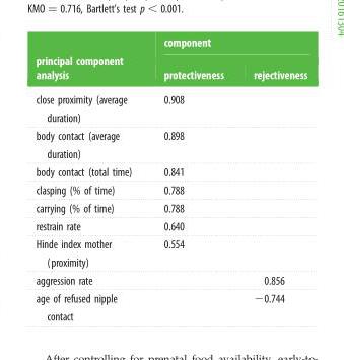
<table><thead><tr><td rowspan="2">principal component analysis</td><td colspan="2">component</td></tr><tr><td>protectiveness</td><td>rejectiveness</td></tr></thead><tbody><tr><td>close proximity (average duration)</td><td>0.908</td><td></td></tr><tr><td>body contact (average duration)</td><td>0.898</td><td></td></tr><tr><td>body contact (total time)</td><td>0.841</td><td></td></tr><tr><td>clasping (% of time)</td><td>0.788</td><td></td></tr><tr><td>carrying (% of time)</td><td>0.788</td><td></td></tr><tr><td>restrain rate</td><td>0.640</td><td></td></tr><tr><td>Hinde index mother (proximity)</td><td>0.554</td><td></td></tr><tr><td>aggression rate</td><td></td><td>0.856</td></tr><tr><td>age of refused nipple contact</td><td></td><td>−0.744</td></tr></tbody></table>